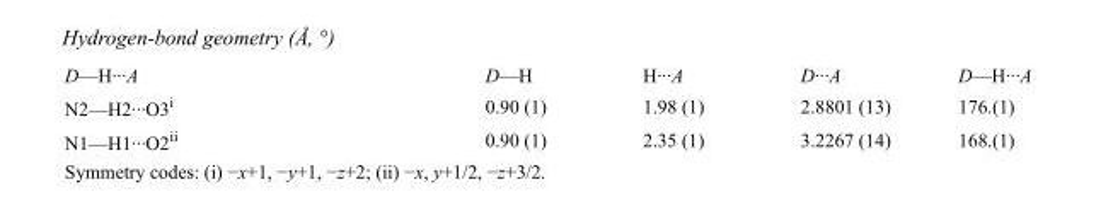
<table><tbody><tr><td>D—H···A</td><td>D—H</td><td>H···A</td><td>D···A</td><td>D—H···A</td></tr><tr><td>N2—H2···O3<sup>i</sup></td><td>0.90 (1)</td><td>1.98 (1)</td><td>2.8801 (13)</td><td>176.(1)</td></tr><tr><td>N1—H1···O2<sup>ii</sup></td><td>0.90 (1)</td><td>2.35 (1)</td><td>3.2267 (14)</td><td>168.(1)</td></tr></tbody></table>